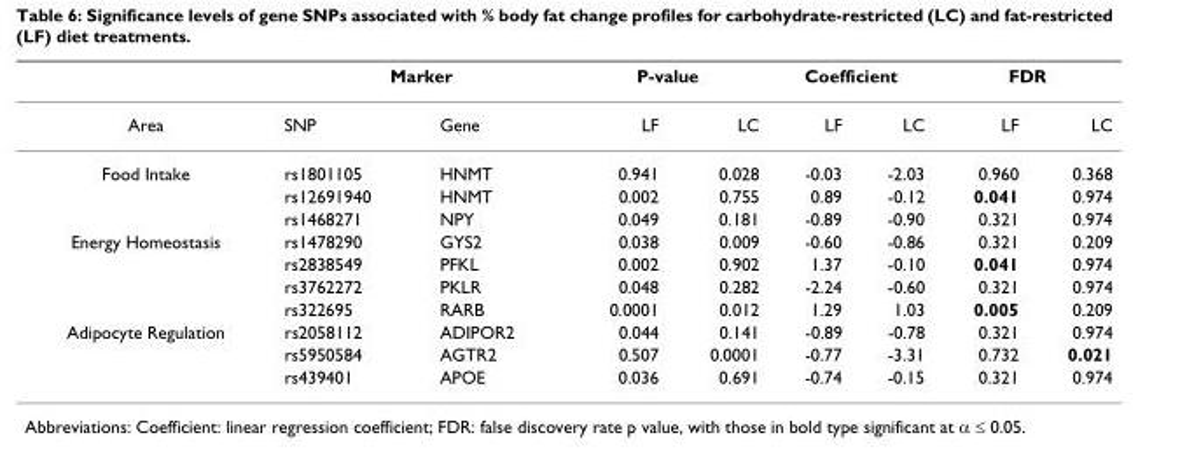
<table><thead><tr><td rowspan="2">Area</td><td colspan="2">Marker</td><td colspan="2">P-value</td><td colspan="2">Coefficient</td><td colspan="2">FDR</td></tr><tr><td>SNP</td><td>Gene</td><td>LF</td><td>LC</td><td>LF</td><td>LC</td><td>LF</td><td>LC</td></tr></thead><tbody><tr><td rowspan="3">Food Intake</td><td>rs1801105</td><td>HNMT</td><td>0.941</td><td>0.028</td><td>-0.03</td><td>-2.03</td><td>0.960</td><td>0.368</td></tr><tr><td>rs12691940</td><td>HNMT</td><td>0.002</td><td>0.755</td><td>0.89</td><td>-0.12</td><td>0.041</td><td>0.974</td></tr><tr><td>rs1468271</td><td>NPY</td><td>0.049</td><td>0.181</td><td>-0.89</td><td>-0.90</td><td>0.321</td><td>0.974</td></tr><tr><td rowspan="4">Energy Homeostasis</td><td>rs1478290</td><td>GYS2</td><td>0.038</td><td>0.009</td><td>-0.60</td><td>-0.86</td><td>0.321</td><td>0.209</td></tr><tr><td>rs2838549</td><td>PFKL</td><td>0.002</td><td>0.902</td><td>1.37</td><td>-0.10</td><td>0.041</td><td>0.974</td></tr><tr><td>rs3762272</td><td>PKLR</td><td>0.048</td><td>0.282</td><td>-2.24</td><td>-0.60</td><td>0.321</td><td>0.974</td></tr><tr><td>rs322695</td><td>RARB</td><td>0.0001</td><td>0.012</td><td>1.29</td><td>1.03</td><td>0.005</td><td>0.209</td></tr><tr><td rowspan="3">Adipocyte Regulation</td><td>rs2058112</td><td>ADIPOR2</td><td>0.044</td><td>0.141</td><td>-0.89</td><td>-0.78</td><td>0.321</td><td>0.974</td></tr><tr><td>rs5950584</td><td>AGTR2</td><td>0.507</td><td>0.0001</td><td>-0.77</td><td>-3.31</td><td>0.732</td><td>0.021</td></tr><tr><td>rs439401</td><td>APOE</td><td>0.036</td><td>0.691</td><td>-0.74</td><td>-0.15</td><td>0.321</td><td>0.974</td></tr></tbody></table>